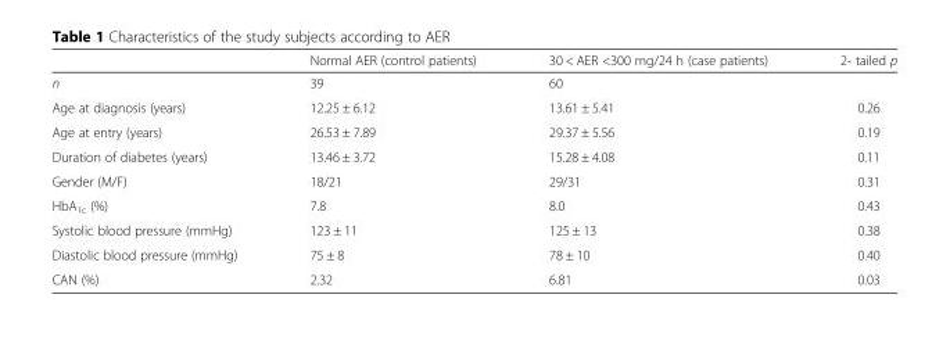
<table><thead><tr><td></td><td>Normal AER (control patients)</td><td>30 &lt; AER &lt;300 mg/24 h (case patients)</td><td>2- tailed p</td></tr></thead><tbody><tr><td>n</td><td>39</td><td>60</td><td></td></tr><tr><td>Age at diagnosis (years)</td><td>12.25 ± 6.12</td><td>13.61 ± 5.41</td><td>0.26</td></tr><tr><td>Age at entry (years)</td><td>26.53 ± 7.89</td><td>29.37 ± 5.56</td><td>0.19</td></tr><tr><td>Duration of diabetes (years)</td><td>13.46 ± 3.72</td><td>15.28 ± 4.08</td><td>0.11</td></tr><tr><td>Gender (M/F)</td><td>18/21</td><td>29/31</td><td>0.31</td></tr><tr><td>HbA<sub>1c</sub> (%)</td><td>7.8</td><td>8.0</td><td>0.43</td></tr><tr><td>Systolic blood pressure (mmHg)</td><td>123 ± 11</td><td>125 ± 13</td><td>0.38</td></tr><tr><td>Diastolic blood pressure (mmHg)</td><td>75 ± 8</td><td>78 ± 10</td><td>0.40</td></tr><tr><td>CAN (%)</td><td>2.32</td><td>6.81</td><td>0.03</td></tr></tbody></table>